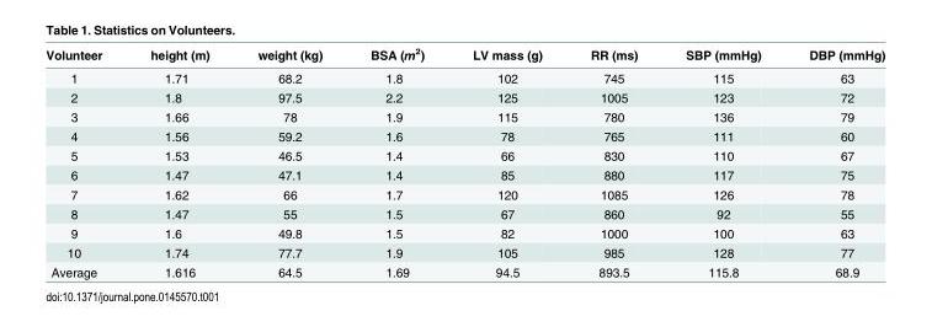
<table><thead><tr><td>Volunteer</td><td>height (m)</td><td>weight (kg)</td><td>BSA (m<sup>2</sup>)</td><td>LV mass (g)</td><td>RR (ms)</td><td>SBP (mmHg)</td><td>DBP (mmHg)</td></tr></thead><tbody><tr><td>1</td><td>1.71</td><td>68.2</td><td>1.8</td><td>102</td><td>745</td><td>115</td><td>63</td></tr><tr><td>2</td><td>1.8</td><td>97.5</td><td>2.2</td><td>125</td><td>1005</td><td>123</td><td>72</td></tr><tr><td>3</td><td>1.66</td><td>78</td><td>1.9</td><td>115</td><td>780</td><td>136</td><td>79</td></tr><tr><td>4</td><td>1.56</td><td>59.2</td><td>1.6</td><td>78</td><td>765</td><td>111</td><td>60</td></tr><tr><td>5</td><td>1.53</td><td>46.5</td><td>1.4</td><td>66</td><td>830</td><td>110</td><td>67</td></tr><tr><td>6</td><td>1.47</td><td>47.1</td><td>1.4</td><td>85</td><td>880</td><td>117</td><td>75</td></tr><tr><td>7</td><td>1.62</td><td>66</td><td>1.7</td><td>120</td><td>1085</td><td>126</td><td>78</td></tr><tr><td>8</td><td>1.47</td><td>55</td><td>1.5</td><td>67</td><td>860</td><td>92</td><td>55</td></tr><tr><td>9</td><td>1.6</td><td>49.8</td><td>1.5</td><td>82</td><td>1000</td><td>100</td><td>63</td></tr><tr><td>10</td><td>1.74</td><td>77.7</td><td>1.9</td><td>105</td><td>985</td><td>128</td><td>77</td></tr><tr><td>Average</td><td>1.616</td><td>64.5</td><td>1.69</td><td>94.5</td><td>893.5</td><td>115.8</td><td>68.9</td></tr></tbody></table>